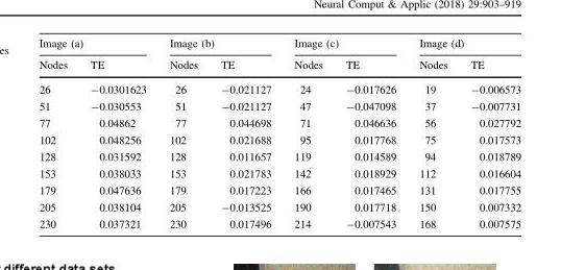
<table><thead><tr><td colspan="2">Image (a)</td><td colspan="2">Image (b)</td><td colspan="2">Image (c)</td><td colspan="2">Image (d)</td></tr><tr><td>Nodes</td><td>TE</td><td>Nodes</td><td>TE</td><td>Nodes</td><td>TE</td><td>Nodes</td><td>TE</td></tr></thead><tbody><tr><td>26</td><td>-0.0301623</td><td>26</td><td>-0.021127</td><td>24</td><td>-0.017626</td><td>19</td><td>-0.006573</td></tr><tr><td>51</td><td>-0.030553</td><td>51</td><td>-0.021127</td><td>47</td><td>-0.047098</td><td>37</td><td>-0.007731</td></tr><tr><td>77</td><td>0.04862</td><td>77</td><td>0.044698</td><td>71</td><td>0.046636</td><td>56</td><td>0.027792</td></tr><tr><td>102</td><td>0.048256</td><td>102</td><td>0.021688</td><td>95</td><td>0.017768</td><td>75</td><td>0.017573</td></tr><tr><td>128</td><td>0.031592</td><td>128</td><td>0.011657</td><td>119</td><td>0.014589</td><td>94</td><td>0.018789</td></tr><tr><td>153</td><td>0.038033</td><td>153</td><td>0.021783</td><td>142</td><td>0.018929</td><td>112</td><td>0.016604</td></tr><tr><td>179</td><td>0.047636</td><td>179</td><td>0.017223</td><td>166</td><td>0.017465</td><td>131</td><td>0.017755</td></tr><tr><td>205</td><td>0.038104</td><td>205</td><td>-0.013525</td><td>190</td><td>0.017718</td><td>150</td><td>0.007332</td></tr><tr><td>230</td><td>0.037321</td><td>230</td><td>0.017496</td><td>214</td><td>-0.007543</td><td>168</td><td>0.007575</td></tr></tbody></table>